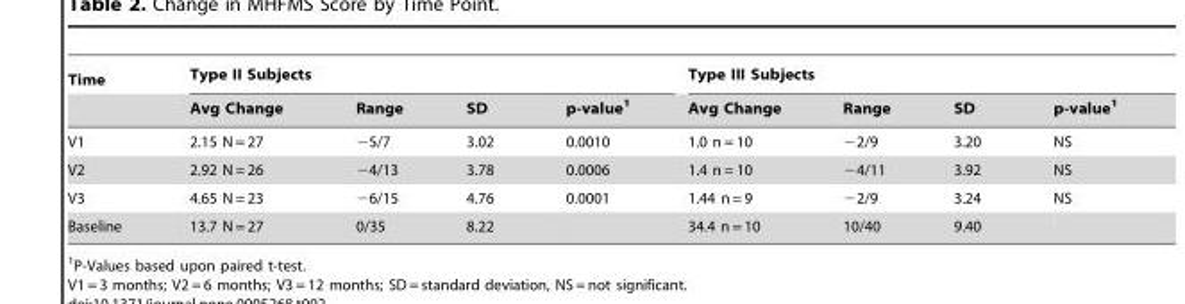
<table><thead><tr><td rowspan="2">Time</td><td colspan="4">Type II Subjects</td><td colspan="4">Type III Subjects</td></tr><tr><td>Avg Change</td><td>Range</td><td>SD</td><td>p-value<sup>1</sup></td><td>Avg Change</td><td>Range</td><td>SD</td><td>p-value<sup>1</sup></td></tr></thead><tbody><tr><td>V1</td><td>2.15 N = 27</td><td>−5/7</td><td>3.02</td><td>0.0010</td><td>1.0 n = 10</td><td>−2/9</td><td>3.20</td><td>NS</td></tr><tr><td>V2</td><td>2.92 N = 26</td><td>−4/13</td><td>3.78</td><td>0.0006</td><td>1.4 n = 10</td><td>−4/11</td><td>3.92</td><td>NS</td></tr><tr><td>V3</td><td>4.65 N = 23</td><td>−6/15</td><td>4.76</td><td>0.0001</td><td>1.44 n = 9</td><td>−2/9</td><td>3.24</td><td>NS</td></tr><tr><td>Baseline</td><td>13.7 N = 27</td><td>0/35</td><td>8.22</td><td></td><td>34.4 n = 10</td><td>10/40</td><td>9.40</td><td></td></tr></tbody></table>